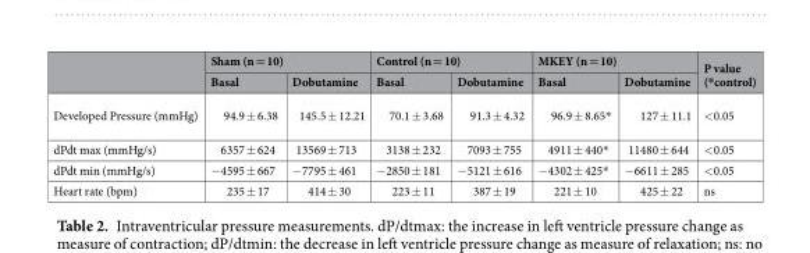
<table><thead><tr><td rowspan="2"></td><td colspan="2">Sham (n = 10)</td><td colspan="2">Control (n = 10)</td><td colspan="2">MKEY (n = 10)</td><td rowspan="2">P value (*control)</td></tr><tr><td>Basal</td><td>Dobutamine</td><td>Basal</td><td>Dobutamine</td><td>Basal</td><td>Dobutamine</td></tr></thead><tbody><tr><td>Developed Pressure (mmHg)</td><td>94.9 ± 6.38</td><td>145.5 ± 12.21</td><td>70.1 ± 3.68</td><td>91.3 ± 4.32</td><td>96.9 ± 8.65*</td><td>127 ± 11.1</td><td>&lt;0.05</td></tr><tr><td>dPdt max (mmHg/s)</td><td>6357 ± 624</td><td>13569 ± 713</td><td>3138 ± 232</td><td>7093 ± 755</td><td>4911 ± 440*</td><td>11480 ± 644</td><td>&lt;0.05</td></tr><tr><td>dPdt min (mmHg/s)</td><td>−4595 ± 667</td><td>−7795 ± 461</td><td>−2850 ± 181</td><td>−5121 ± 616</td><td>−4302 ± 425*</td><td>−6611 ± 285</td><td>&lt;0.05</td></tr><tr><td>Heart rate (bpm)</td><td>235 ± 17</td><td>414 ± 30</td><td>223 ± 11</td><td>387 ± 19</td><td>221 ± 10</td><td>425 ± 22</td><td>ns</td></tr></tbody></table>